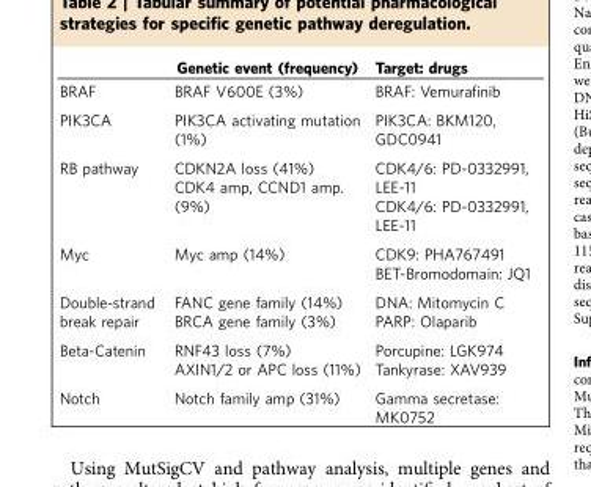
<table><thead><tr><td></td><td>Genetic event (frequency)</td><td>Target: drugs</td></tr></thead><tbody><tr><td>BRAF</td><td>BRAF V600E (3%)</td><td>BRAF: Vemurafinib</td></tr><tr><td>PIK3CA</td><td>PIK3CA activating mutation (1%)</td><td>PIK3CA: BKM120, GDC0941</td></tr><tr><td>RB pathway</td><td>CDKN2A loss (41%) CDK4 amp, CCND1 amp. (9%)</td><td>CDK4/6: PD-0332991, LEE-11 CDK4/6: PD-0332991, LEE-11</td></tr><tr><td>Myc</td><td>Myc amp (14%)</td><td>CDK9: PHA767491 BET-Bromodomain: JQ1</td></tr><tr><td>Double-strand break repair</td><td>FANC gene family (14%) BRCA gene family (3%)</td><td>DNA: Mitomycin C PARP: Olaparib</td></tr><tr><td>Beta-Catenin</td><td>RNF43 loss (7%) AXIN1/2 or APC loss (11%)</td><td>Porcupine: LGK974 Tankyrase: XAV939</td></tr><tr><td>Notch</td><td>Notch family amp (31%)</td><td>Gamma secretase: MK0752</td></tr></tbody></table>